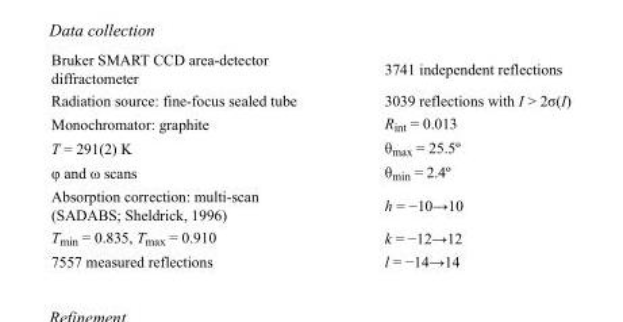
<table><tbody><tr><td>Bruker SMART CCD area-detector diffractometer</td><td>3741 independent reflections</td></tr><tr><td>Radiation source: fine-focus sealed tube</td><td>3039 reflections with I &gt; 2σ(I)</td></tr><tr><td>Monochromator: graphite</td><td>R<sub>int</sub> = 0.013</td></tr><tr><td>T = 291(2) K</td><td>θ<sub>max</sub> = 25.5º</td></tr><tr><td>φ and ω scans</td><td>θ<sub>min</sub> = 2.4º</td></tr><tr><td>Absorption correction: multi-scan (SADABS; Sheldrick, 1996)</td><td>h = −10→10</td></tr><tr><td>T<sub>min</sub> = 0.835, T<sub>max</sub> = 0.910</td><td>k = −12→12</td></tr><tr><td>7557 measured reflections</td><td>l = −14→14</td></tr></tbody></table>